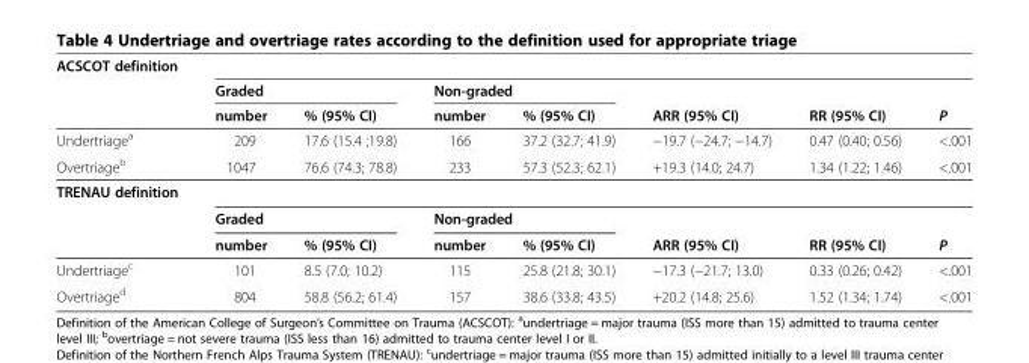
<table><thead><tr><td rowspan="3">ACSCOT definition</td><td></td><td></td><td></td><td></td><td rowspan="3">ARR (95% CI)</td><td rowspan="3">RR (95% CI)</td><td rowspan="3">P</td></tr><tr><td colspan="2">Graded</td><td colspan="2">Non-graded</td></tr><tr><td>number</td><td>% (95% CI)</td><td>number</td><td>% (95% CI)</td></tr></thead><tbody><tr><td>Undertriage<sup>a</sup></td><td>209</td><td>17.6 (15.4 ;19.8)</td><td>166</td><td>37.2 (32.7; 41.9)</td><td>−19.7 (−24.7; −14.7)</td><td>0.47 (0.40; 0.56)</td><td>&lt;.001</td></tr><tr><td>Overtriage<sup>b</sup></td><td>1047</td><td>76.6 (74.3; 78.8)</td><td>233</td><td>57.3 (52.3; 62.1)</td><td>+19.3 (14.0; 24.7)</td><td>1.34 (1.22; 1.46)</td><td>&lt;.001</td></tr><tr><td colspan="8">TRENAU definition</td></tr><tr><td></td><td colspan="2">Graded</td><td colspan="2">Non-graded</td><td></td><td></td><td></td></tr><tr><td></td><td>number</td><td>% (95% CI)</td><td>number</td><td>% (95% CI)</td><td>ARR (95% CI)</td><td>RR (95% CI)</td><td>P</td></tr><tr><td>Undertriage<sup>c</sup></td><td>101</td><td>8.5 (7.0; 10.2)</td><td>115</td><td>25.8 (21.8; 30.1)</td><td>−17.3 (−21.7; 13.0)</td><td>0.33 (0.26; 0.42)</td><td>&lt;.001</td></tr><tr><td>Overtriage<sup>d</sup></td><td>804</td><td>58.8 (56.2; 61.4)</td><td>157</td><td>38.6 (33.8; 43.5)</td><td>+20.2 (14.8; 25.6)</td><td>1.52 (1.34; 1.74)</td><td>&lt;.001</td></tr></tbody></table>